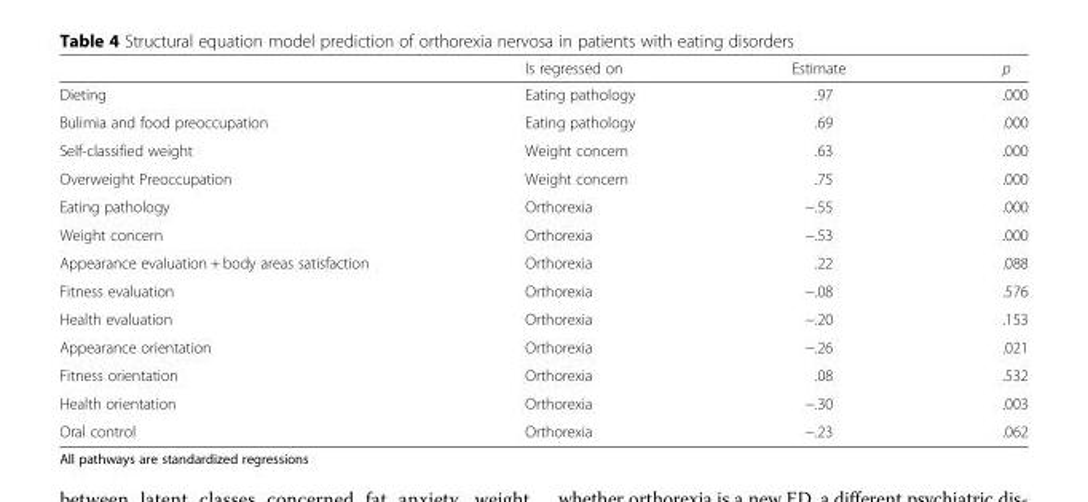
<table><thead><tr><td></td><td>Is regressed on</td><td>Estimate</td><td>p</td></tr></thead><tbody><tr><td>Dieting</td><td>Eating pathology</td><td>.97</td><td>.000</td></tr><tr><td>Bulimia and food preoccupation</td><td>Eating pathology</td><td>.69</td><td>.000</td></tr><tr><td>Self-classified weight</td><td>Weight concern</td><td>.63</td><td>.000</td></tr><tr><td>Overweight Preoccupation</td><td>Weight concern</td><td>.75</td><td>.000</td></tr><tr><td>Eating pathology</td><td>Orthorexia</td><td>−.55</td><td>.000</td></tr><tr><td>Weight concern</td><td>Orthorexia</td><td>−.53</td><td>.000</td></tr><tr><td>Appearance evaluation + body areas satisfaction</td><td>Orthorexia</td><td>.22</td><td>.088</td></tr><tr><td>Fitness evaluation</td><td>Orthorexia</td><td>−.08</td><td>.576</td></tr><tr><td>Health evaluation</td><td>Orthorexia</td><td>−.20</td><td>.153</td></tr><tr><td>Appearance orientation</td><td>Orthorexia</td><td>−.26</td><td>.021</td></tr><tr><td>Fitness orientation</td><td>Orthorexia</td><td>.08</td><td>.532</td></tr><tr><td>Health orientation</td><td>Orthorexia</td><td>−.30</td><td>.003</td></tr><tr><td>Oral control</td><td>Orthorexia</td><td>−.23</td><td>.062</td></tr></tbody></table>